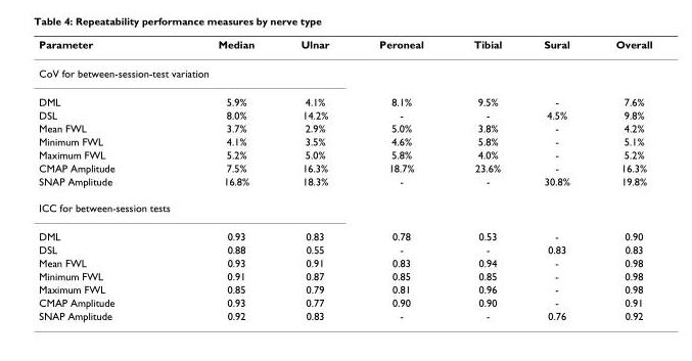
<table><thead><tr><td>Parameter</td><td>Median</td><td>Ulnar</td><td>Peroneal</td><td>Tibial</td><td>Sural</td><td>Overall</td></tr></thead><tbody><tr><td colspan="7">CoV for between-session-test variation</td></tr><tr><td>DML</td><td>5.9%</td><td>4.1%</td><td>8.1%</td><td>9.5%</td><td>-</td><td>7.6%</td></tr><tr><td>DSL</td><td>8.0%</td><td>14.2%</td><td>-</td><td>-</td><td>4.5%</td><td>9.8%</td></tr><tr><td>Mean FWL</td><td>3.7%</td><td>2.9%</td><td>5.0%</td><td>3.8%</td><td>-</td><td>4.2%</td></tr><tr><td>Minimum FWL</td><td>4.1%</td><td>3.5%</td><td>4.6%</td><td>5.8%</td><td>-</td><td>5.1%</td></tr><tr><td>Maximum FWL</td><td>5.2%</td><td>5.0%</td><td>5.8%</td><td>4.0%</td><td>-</td><td>5.2%</td></tr><tr><td>CMAP Amplitude</td><td>7.5%</td><td>16.3%</td><td>18.7%</td><td>23.6%</td><td>-</td><td>16.3%</td></tr><tr><td>SNAP Amplitude</td><td>16.8%</td><td>18.3%</td><td>-</td><td>-</td><td>30.8%</td><td>19.8%</td></tr><tr><td colspan="7">ICC for between-session tests</td></tr><tr><td>DML</td><td>0.93</td><td>0.83</td><td>0.78</td><td>0.53</td><td>-</td><td>0.90</td></tr><tr><td>DSL</td><td>0.88</td><td>0.55</td><td>-</td><td>-</td><td>0.83</td><td>0.83</td></tr><tr><td>Mean FWL</td><td>0.93</td><td>0.91</td><td>0.83</td><td>0.94</td><td>-</td><td>0.98</td></tr><tr><td>Minimum FWL</td><td>0.91</td><td>0.87</td><td>0.85</td><td>0.85</td><td>-</td><td>0.98</td></tr><tr><td>Maximum FWL</td><td>0.85</td><td>0.79</td><td>0.81</td><td>0.96</td><td>-</td><td>0.98</td></tr><tr><td>CMAP Amplitude</td><td>0.93</td><td>0.77</td><td>0.90</td><td>0.90</td><td>-</td><td>0.91</td></tr><tr><td>SNAP Amplitude</td><td>0.92</td><td>0.83</td><td>-</td><td>-</td><td>0.76</td><td>0.92</td></tr></tbody></table>